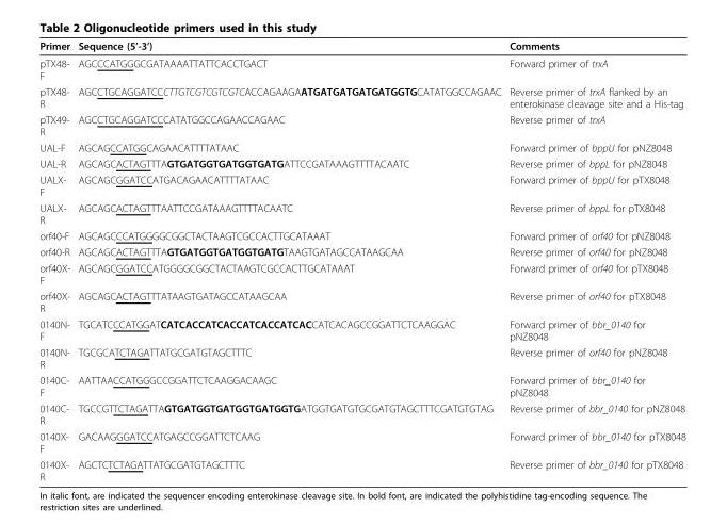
<table><thead><tr><td>Primer</td><td>Sequence (5’-3’)</td><td>Comments</td></tr></thead><tbody><tr><td>pTX48- F</td><td>AGCCCATGGGCGATAAAATTATTCACCTGACT</td><td>Forward primer of trxA</td></tr><tr><td>pTX48- R</td><td>AGCCTGCAGGATCCCTTGTCGTCGTCGTCACCAGAAGAATGATGATGATGATGGTGCATATGGCCAGAAC</td><td>Reverse primer of trxA flanked by an enterokinase cleavage site and a His-tag</td></tr><tr><td>pTX49- R</td><td>AGCCTGCAGGATCCCATATGGCCAGAACCAGAAC</td><td>Reverse primer of trxA</td></tr><tr><td>UAL-F</td><td>AGCAGCCATGGCAGAACATTTTATAAC</td><td>Forward primer of bppU for pNZ8048</td></tr><tr><td>UAL-R</td><td>AGCAGCACTAGTTTAGTGATGGTGATGGTGATGATTCCGATAAAGTTTTACAATC</td><td>Reverse primer of bppL for pNZ8048</td></tr><tr><td>UALX- F</td><td>AGCAGCGGATCCATGACAGAACATTTTATAAC</td><td>Forward primer of bppU for pTX8048</td></tr><tr><td>UALX- R</td><td>AGCAGCACTAGTTTAATTCCGATAAAGTTTTACAATC</td><td>Reverse primer of bppL for pTX8048</td></tr><tr><td>orf40-F</td><td>AGCAGCCCATGGGGCGGCTACTAAGTCGCCACTTGCATAAAT</td><td>Forward primer of orf40 for pNZ8048</td></tr><tr><td>orf40-R</td><td>AGCAGCACTAGTTTAGTGATGGTGATGGTGATGTAAGTGATAGCCATAAGCAA</td><td>Reverse primer of orf40 for pNZ8048</td></tr><tr><td>orf40X- F</td><td>AGCAGCGGATCCATGGGGCGGCTACTAAGTCGCCACTTGCATAAAT</td><td>Forward primer of orf40 for pTX8048</td></tr><tr><td>orf40X- R</td><td>AGCAGCACTAGTTTATAAGTGATAGCCATAAGCAA</td><td>Reverse primer of orf40 for pTX8048</td></tr><tr><td>0140N- F</td><td>TGCATCCCATGGATCATCACCATCACCATCACCATCACCATCACAGCCGGATTCTCAAGGAC</td><td>Forward primer of bbr_0140 for pNZ8048</td></tr><tr><td>0140N- R</td><td>TGCGCATCTAGATTATGCGATGTAGCTTTC</td><td>Reverse primer of orf40 for pNZ8048</td></tr><tr><td>0140C- F</td><td>AATTAACCATGGGCCGGATTCTCAAGGACAAGC</td><td>Forward primer of bbr_0140 for pNZ8048</td></tr><tr><td>0140C- R</td><td>TGCCGTTCTAGATTAGTGATGGTGATGGTGATGGTGATGGTGATGTGCGATGTAGCTTTCGATGTGTAG</td><td>Reverse primer of bbr_0140 for pNZ8048</td></tr><tr><td>0140X- F</td><td>GACAAGGGATCCATGAGCCGGATTCTCAAG</td><td>Forward primer of bbr_0140 for pTX8048</td></tr><tr><td>0140X- R</td><td>AGCTCTCTAGATTATGCGATGTAGCTTTC</td><td>Reverse primer of bbr_0140 for pTX8048</td></tr></tbody></table>